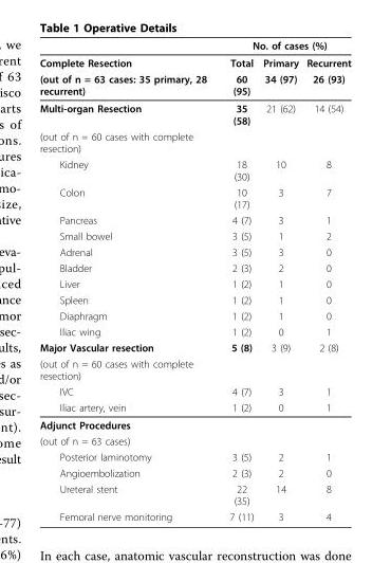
<table><thead><tr><td rowspan="2">Complete Resection</td><td colspan="3">No. of cases (%)</td></tr><tr><td>Total</td><td>Primary</td><td>Recurrent</td></tr></thead><tbody><tr><td>(out of n = 63 cases: 35 primary, 28 recurrent)</td><td>60 (95)</td><td>34 (97)</td><td>26 (93)</td></tr><tr><td>Multi-organ Resection</td><td>35 (58)</td><td>21 (62)</td><td>14 (54)</td></tr><tr><td colspan="4">(out of n = 60 cases with complete resection)</td></tr><tr><td>Kidney</td><td>18 (30)</td><td>10</td><td>8</td></tr><tr><td>Colon</td><td>10 (17)</td><td>3</td><td>7</td></tr><tr><td>Pancreas</td><td>4 (7)</td><td>3</td><td>1</td></tr><tr><td>Small bowel</td><td>3 (5)</td><td>1</td><td>2</td></tr><tr><td>Adrenal</td><td>3 (5)</td><td>3</td><td>0</td></tr><tr><td>Bladder</td><td>2 (3)</td><td>2</td><td>0</td></tr><tr><td>Liver</td><td>1 (2)</td><td>1</td><td>0</td></tr><tr><td>Spleen</td><td>1 (2)</td><td>1</td><td>0</td></tr><tr><td>Diaphragm</td><td>1 (2)</td><td>1</td><td>0</td></tr><tr><td>Iliac wing</td><td>1 (2)</td><td>0</td><td>1</td></tr><tr><td>Major Vascular resection</td><td>5 (8)</td><td>3 (9)</td><td>2 (8)</td></tr><tr><td colspan="4">(out of n = 60 cases with complete resection)</td></tr><tr><td>IVC</td><td>4 (7)</td><td>3</td><td>1</td></tr><tr><td>Iliac artery, vein</td><td>1 (2)</td><td>0</td><td>1</td></tr><tr><td colspan="4">Adjunct Procedures</td></tr><tr><td colspan="4">(out of n = 63 cases)</td></tr><tr><td>Posterior laminotomy</td><td>3 (5)</td><td>2</td><td>1</td></tr><tr><td>Angioembolization</td><td>2 (3)</td><td>2</td><td>0</td></tr><tr><td>Ureteral stent</td><td>22 (35)</td><td>14</td><td>8</td></tr><tr><td>Femoral nerve monitoring</td><td>7 (11)</td><td>3</td><td>4</td></tr></tbody></table>